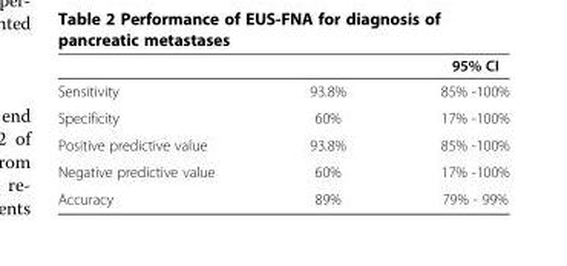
<table><thead><tr><td></td><td></td><td>95% CI</td></tr></thead><tbody><tr><td>Sensitivity</td><td>93.8%</td><td>85% -100%</td></tr><tr><td>Specificity</td><td>60%</td><td>17% -100%</td></tr><tr><td>Positive predictive value</td><td>93.8%</td><td>85% -100%</td></tr><tr><td>Negative predictive value</td><td>60%</td><td>17% -100%</td></tr><tr><td>Accuracy</td><td>89%</td><td>79% - 99%</td></tr></tbody></table>